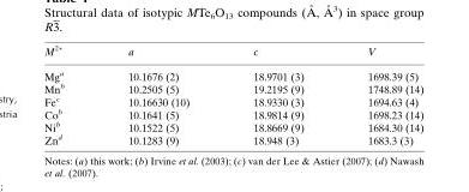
<table><tbody><tr><td>M<sup>2+</sup></td><td>a</td><td>c</td><td>V</td></tr><tr><td>Mga</td><td>10.1676 (2)</td><td>18.9701 (3)</td><td>1698.39 (5)</td></tr><tr><td>Mnb</td><td>10.2505 (5)</td><td>19.2195 (9)</td><td>1748.89 (14)</td></tr><tr><td>Fec</td><td>10.16630 (10)</td><td>18.9330 (3)</td><td>1694.63 (4)</td></tr><tr><td>Cob</td><td>10.1641 (5)</td><td>18.9814 (9)</td><td>1698.23 (14)</td></tr><tr><td>Nib</td><td>10.1522 (5)</td><td>18.8669 (9)</td><td>1684.30 (14)</td></tr><tr><td>Znd</td><td>10.1283 (9)</td><td>18.948 (3)</td><td>1683.3 (3)</td></tr></tbody></table>